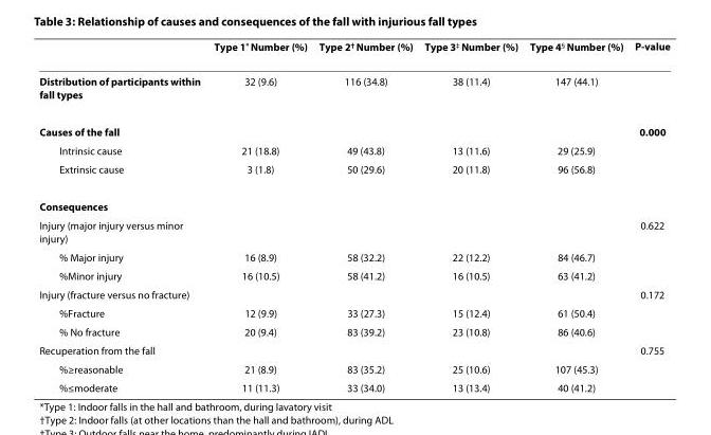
<table><thead><tr><td></td><td>Type 1* Number (%)</td><td>Type 2<sup>†</sup> Number (%)</td><td>Type 3<sup>‡</sup> Number (%)</td><td>Type 4<sup>§</sup> Number (%)</td><td>P-value</td></tr></thead><tbody><tr><td>Distribution of participants within fall types</td><td>32 (9.6)</td><td>116 (34.8)</td><td>38 (11.4)</td><td>147 (44.1)</td><td></td></tr><tr><td>Causes of the fall</td><td></td><td></td><td></td><td></td><td>0.000</td></tr><tr><td>Intrinsic cause</td><td>21 (18.8)</td><td>49 (43.8)</td><td>13 (11.6)</td><td>29 (25.9)</td><td></td></tr><tr><td>Extrinsic cause</td><td>3 (1.8)</td><td>50 (29.6)</td><td>20 (11.8)</td><td>96 (56.8)</td><td></td></tr><tr><td colspan="6">Consequences</td></tr><tr><td>Injury (major injury versus minor injury)</td><td></td><td></td><td></td><td></td><td>0.622</td></tr><tr><td>% Major injury</td><td>16 (8.9)</td><td>58 (32.2)</td><td>22 (12.2)</td><td>84 (46.7)</td><td></td></tr><tr><td>%Minor injury</td><td>16 (10.5)</td><td>58 (41.2)</td><td>16 (10.5)</td><td>63 (41.2)</td><td></td></tr><tr><td>Injury (fracture versus no fracture)</td><td></td><td></td><td></td><td></td><td>0.172</td></tr><tr><td>%Fracture</td><td>12 (9.9)</td><td>33 (27.3)</td><td>15 (12.4)</td><td>61 (50.4)</td><td></td></tr><tr><td>% No fracture</td><td>20 (9.4)</td><td>83 (39.2)</td><td>23 (10.8)</td><td>86 (40.6)</td><td></td></tr><tr><td>Recuperation from the fall</td><td></td><td></td><td></td><td></td><td>0.755</td></tr><tr><td>%≥reasonable</td><td>21 (8.9)</td><td>83 (35.2)</td><td>25 (10.6)</td><td>107 (45.3)</td><td></td></tr><tr><td>%≤moderate</td><td>11 (11.3)</td><td>33 (34.0)</td><td>13 (13.4)</td><td>40 (41.2)</td><td></td></tr></tbody></table>